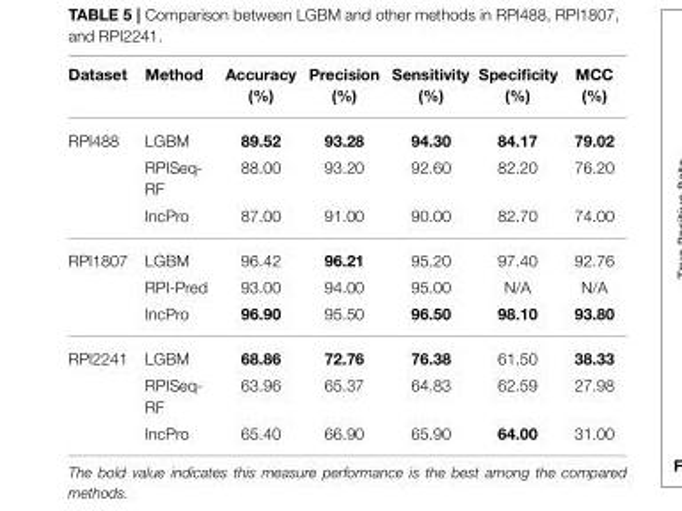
<table><thead><tr><td>Dataset</td><td>Method</td><td>Accuracy (%)</td><td>Precision (%)</td><td>Sensitivity (%)</td><td>Specificity (%)</td><td>MCC (%)</td></tr></thead><tbody><tr><td rowspan="3">RPI488</td><td>LGBM</td><td>89.52</td><td>93.28</td><td>94.30</td><td>84.17</td><td>79.02</td></tr><tr><td>RPISeq- RF</td><td>88.00</td><td>93.20</td><td>92.60</td><td>82.20</td><td>76.20</td></tr><tr><td>IncPro</td><td>87.00</td><td>91.00</td><td>90.00</td><td>82.70</td><td>74.00</td></tr><tr><td rowspan="3">RPI1807</td><td>LGBM</td><td>96.42</td><td>96.21</td><td>95.20</td><td>97.40</td><td>92.76</td></tr><tr><td>RPI-Pred</td><td>93.00</td><td>94.00</td><td>95.00</td><td>N/A</td><td>N/A</td></tr><tr><td>IncPro</td><td>96.90</td><td>95.50</td><td>96.50</td><td>98.10</td><td>93.80</td></tr><tr><td rowspan="3">RPI2241</td><td>LGBM</td><td>68.86</td><td>72.76</td><td>76.38</td><td>61.50</td><td>38.33</td></tr><tr><td>RPISeq- RF</td><td>63.96</td><td>65.37</td><td>64.83</td><td>62.59</td><td>27.98</td></tr><tr><td>IncPro</td><td>65.40</td><td>66.90</td><td>65.90</td><td>64.00</td><td>31.00</td></tr></tbody></table>